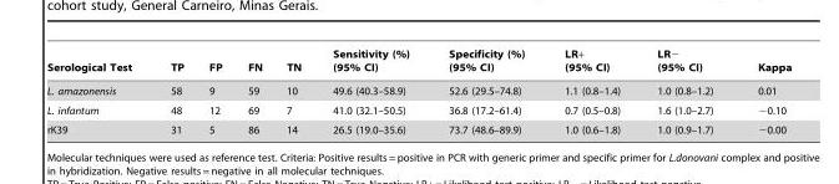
<table><thead><tr><td>Serological Test</td><td>TP</td><td>FP</td><td>FN</td><td>TN</td><td>Sensitivity (%) (95% CI)</td><td>Specificity (%) (95% CI)</td><td>LR+ (95% CI)</td><td>LR− (95% CI)</td><td>Kappa</td></tr></thead><tbody><tr><td>L. amazonensis</td><td>58</td><td>9</td><td>59</td><td>10</td><td>49.6 (40.3–58.9)</td><td>52.6 (29.5–74.8)</td><td>1.1 (0.8–1.4)</td><td>1.0 (0.8–1.2)</td><td>0.01</td></tr><tr><td>L. infantum</td><td>48</td><td>12</td><td>69</td><td>7</td><td>41.0 (32.1–50.5)</td><td>36.8 (17.2–61.4)</td><td>0.7 (0.5–0.8)</td><td>1.6 (1.0–2.7)</td><td>−0.10</td></tr><tr><td>rK39</td><td>31</td><td>5</td><td>86</td><td>14</td><td>26.5 (19.0–35.6)</td><td>73.7 (48.6–89.9)</td><td>1.0 (0.6–1.8)</td><td>1.0 (0.9–1.7)</td><td>−0.00</td></tr></tbody></table>